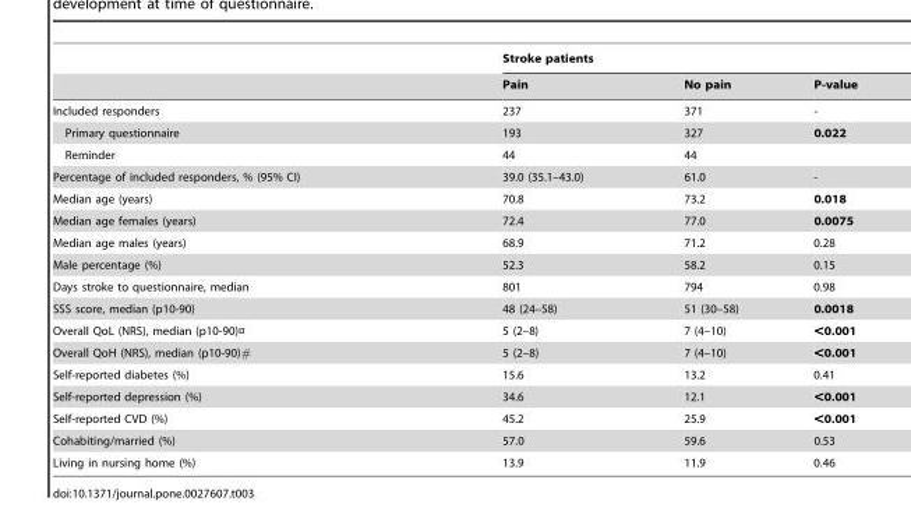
<table><thead><tr><td rowspan="2"></td><td colspan="3">Stroke patients</td></tr><tr><td>Pain</td><td>No pain</td><td>P-value</td></tr></thead><tbody><tr><td>Included responders</td><td>237</td><td>371</td><td>-</td></tr><tr><td>Primary questionnaire</td><td>193</td><td>327</td><td>0.022</td></tr><tr><td>Reminder</td><td>44</td><td>44</td><td></td></tr><tr><td>Percentage of included responders, % (95% CI)</td><td>39.0 (35.1–43.0)</td><td>61.0</td><td>-</td></tr><tr><td>Median age (years)</td><td>70.8</td><td>73.2</td><td>0.018</td></tr><tr><td>Median age females (years)</td><td>72.4</td><td>77.0</td><td>0.0075</td></tr><tr><td>Median age males (years)</td><td>68.9</td><td>71.2</td><td>0.28</td></tr><tr><td>Male percentage (%)</td><td>52.3</td><td>58.2</td><td>0.15</td></tr><tr><td>Days stroke to questionnaire, median</td><td>801</td><td>794</td><td>0.98</td></tr><tr><td>SSS score, median (p10-90)</td><td>48 (24–58)</td><td>51 (30–58)</td><td>0.0018</td></tr><tr><td>Overall QoL (NRS), median (p10-90)¤</td><td>5 (2–8)</td><td>7 (4–10)</td><td>&lt;0.001</td></tr><tr><td>Overall QoH (NRS), median (p10-90)#</td><td>5 (2–8)</td><td>7 (4–10)</td><td>&lt;0.001</td></tr><tr><td>Self-reported diabetes (%)</td><td>15.6</td><td>13.2</td><td>0.41</td></tr><tr><td>Self-reported depression (%)</td><td>34.6</td><td>12.1</td><td>&lt;0.001</td></tr><tr><td>Self-reported CVD (%)</td><td>45.2</td><td>25.9</td><td>&lt;0.001</td></tr><tr><td>Cohabiting/married (%)</td><td>57.0</td><td>59.6</td><td>0.53</td></tr><tr><td>Living in nursing home (%)</td><td>13.9</td><td>11.9</td><td>0.46</td></tr></tbody></table>